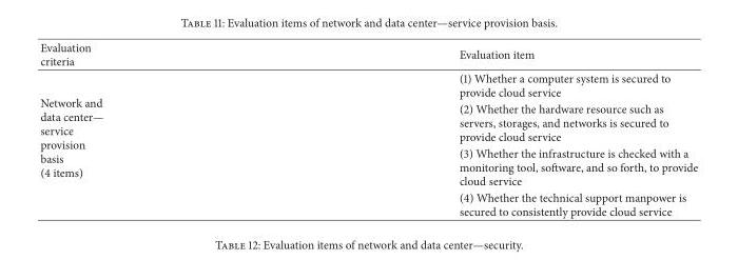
<table><thead><tr><td>Evaluation criteria</td><td>Evaluation item</td></tr></thead><tbody><tr><td rowspan="4">Network and data center— service provision basis (4 items)</td><td>(1) Whether a computer system is secured to provide cloud service</td></tr><tr><td>(2) Whether the hardware resource such as servers, storages, and networks is secured to provide cloud service</td></tr><tr><td>(3) Whether the infrastructure is checked with a monitoring tool, software, and so forth, to provide cloud service</td></tr><tr><td>(4) Whether the technical support manpower is secured to consistently provide cloud service</td></tr></tbody></table>